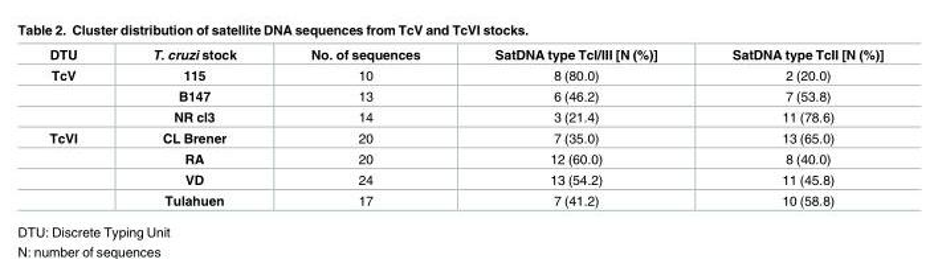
<table><thead><tr><td>DTU</td><td>T. cruzi stock</td><td>No. of sequences</td><td>SatDNA type TcI/III [N (%)]</td><td>SatDNA type TcII [N (%)]</td></tr></thead><tbody><tr><td rowspan="3">TcV</td><td>115</td><td>10</td><td>8 (80.0)</td><td>2 (20.0)</td></tr><tr><td>B147</td><td>13</td><td>6 (46.2)</td><td>7 (53.8)</td></tr><tr><td>NR cl3</td><td>14</td><td>3 (21.4)</td><td>11 (78.6)</td></tr><tr><td rowspan="4">TcVI</td><td>CL Brener</td><td>20</td><td>7 (35.0)</td><td>13 (65.0)</td></tr><tr><td>RA</td><td>20</td><td>12 (60.0)</td><td>8 (40.0)</td></tr><tr><td>VD</td><td>24</td><td>13 (54.2)</td><td>11 (45.8)</td></tr><tr><td>Tulahuen</td><td>17</td><td>7 (41.2)</td><td>10 (58.8)</td></tr></tbody></table>